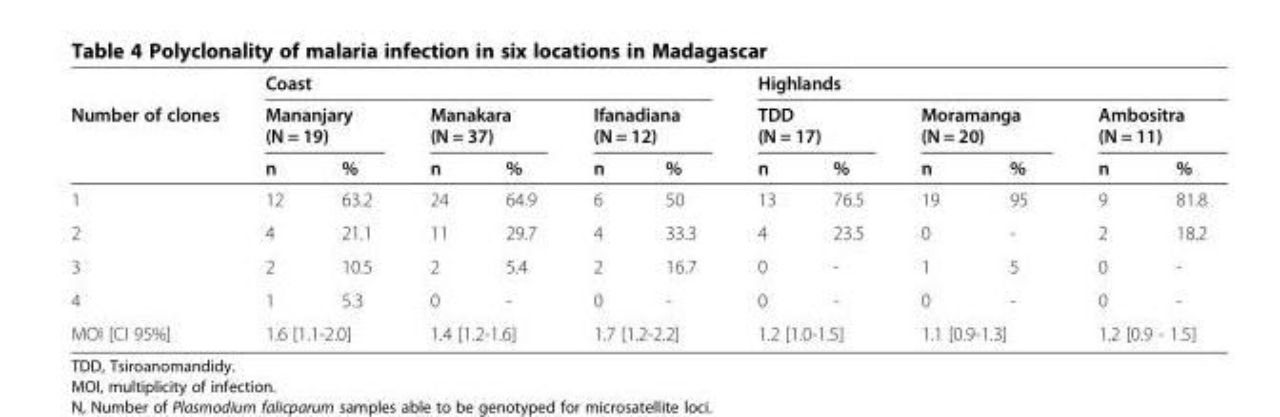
<table><thead><tr><td rowspan="3">Number of clones</td><td colspan="6">Coast</td><td colspan="6">Highlands</td></tr><tr><td colspan="2">Mananjary (N = 19)</td><td colspan="2">Manakara (N = 37)</td><td colspan="2">Ifanadiana (N = 12)</td><td colspan="2">TDD (N = 17)</td><td colspan="2">Moramanga (N = 20)</td><td colspan="2">Ambositra (N = 11)</td></tr><tr><td>n</td><td>%</td><td>n</td><td>%</td><td>n</td><td>%</td><td>n</td><td>%</td><td>n</td><td>%</td><td>n</td><td>%</td></tr></thead><tbody><tr><td>1</td><td>12</td><td>63.2</td><td>24</td><td>64.9</td><td>6</td><td>50</td><td>13</td><td>76.5</td><td>19</td><td>95</td><td>9</td><td>81.8</td></tr><tr><td>2</td><td>4</td><td>21.1</td><td>11</td><td>29.7</td><td>4</td><td>33.3</td><td>4</td><td>23.5</td><td>0</td><td>-</td><td>2</td><td>18.2</td></tr><tr><td>3</td><td>2</td><td>10.5</td><td>2</td><td>5.4</td><td>2</td><td>16.7</td><td>0</td><td>-</td><td>1</td><td>5</td><td>0</td><td>-</td></tr><tr><td>4</td><td>1</td><td>5.3</td><td>0</td><td>-</td><td>0</td><td>-</td><td>0</td><td>-</td><td>0</td><td>-</td><td>0</td><td>-</td></tr><tr><td>MOI [CI 95%]</td><td colspan="2">1.6 [1.1-2.0]</td><td colspan="2">1.4 [1.2-1.6]</td><td colspan="2">1.7 [1.2-2.2]</td><td colspan="2">1.2 [1.0-1.5]</td><td colspan="2">1.1 [0.9-1.3]</td><td colspan="2">1.2 [0.9 - 1.5]</td></tr></tbody></table>